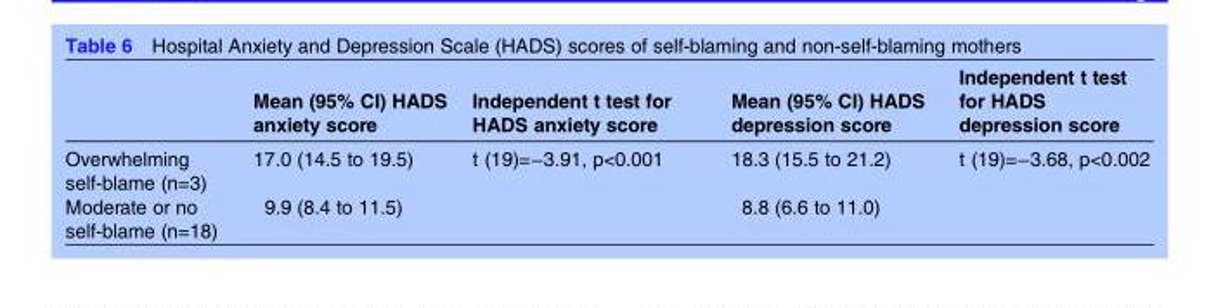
<table><thead><tr><td></td><td>Mean (95% CI) HADS anxiety score</td><td>Independent t test for HADS anxiety score</td><td>Mean (95% CI) HADS depression score</td><td>Independent t test for HADS depression score</td></tr></thead><tbody><tr><td>Overwhelming self-blame (n=3)</td><td>17.0 (14.5 to 19.5)</td><td rowspan="2">t (19)=−3.91, p&lt;0.001</td><td>18.3 (15.5 to 21.2)</td><td rowspan="2">t (19)=−3.68, p&lt;0.002</td></tr><tr><td>Moderate or no self-blame (n=18)</td><td>9.9 (8.4 to 11.5)</td><td>8.8 (6.6 to 11.0)</td></tr></tbody></table>